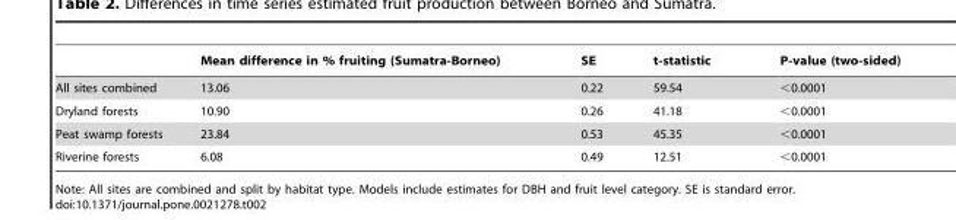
<table><thead><tr><td></td><td>Mean difference in % fruiting (Sumatra-Borneo)</td><td>SE</td><td>t-statistic</td><td>P-value (two-sided)</td></tr></thead><tbody><tr><td>All sites combined</td><td>13.06</td><td>0.22</td><td>59.54</td><td>&lt;0.0001</td></tr><tr><td>Dryland forests</td><td>10.90</td><td>0.26</td><td>41.18</td><td>&lt;0.0001</td></tr><tr><td>Peat swamp forests</td><td>23.84</td><td>0.53</td><td>45.35</td><td>&lt;0.0001</td></tr><tr><td>Riverine forests</td><td>6.08</td><td>0.49</td><td>12.51</td><td>&lt;0.0001</td></tr></tbody></table>